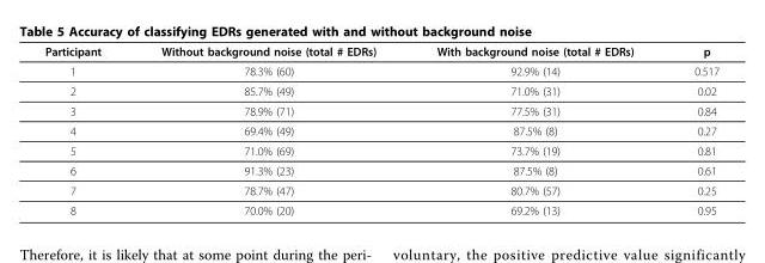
<table><thead><tr><td>Participant</td><td>Without background noise (total # EDRs)</td><td>With background noise (total # EDRs)</td><td>p</td></tr></thead><tbody><tr><td>1</td><td>78.3% (60)</td><td>92.9% (14)</td><td>0.517</td></tr><tr><td>2</td><td>85.7% (49)</td><td>71.0% (31)</td><td>0.02</td></tr><tr><td>3</td><td>78.9% (71)</td><td>77.5% (31)</td><td>0.84</td></tr><tr><td>4</td><td>69.4% (49)</td><td>87.5% (8)</td><td>0.27</td></tr><tr><td>5</td><td>71.0% (69)</td><td>73.7% (19)</td><td>0.81</td></tr><tr><td>6</td><td>91.3% (23)</td><td>87.5% (8)</td><td>0.61</td></tr><tr><td>7</td><td>78.7% (47)</td><td>80.7% (57)</td><td>0.25</td></tr><tr><td>8</td><td>70.0% (20)</td><td>69.2% (13)</td><td>0.95</td></tr></tbody></table>